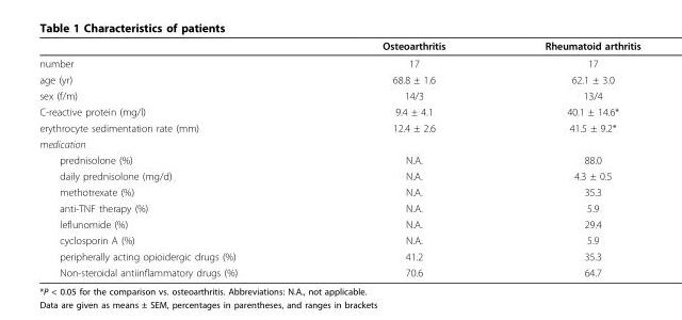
<table><thead><tr><td></td><td>Osteoarthritis</td><td>Rheumatoid arthritis</td></tr></thead><tbody><tr><td>number</td><td>17</td><td>17</td></tr><tr><td>age (yr)</td><td>68.8 ± 1.6</td><td>62.1 ± 3.0</td></tr><tr><td>sex (f/m)</td><td>14/3</td><td>13/4</td></tr><tr><td>C-reactive protein (mg/l)</td><td>9.4 ± 4.1</td><td>40.1 ± 14.6*</td></tr><tr><td>erythrocyte sedimentation rate (mm)</td><td>12.4 ± 2.6</td><td>41.5 ± 9.2*</td></tr><tr><td colspan="3">medication</td></tr><tr><td>prednisolone (%)</td><td>N.A.</td><td>88.0</td></tr><tr><td>daily prednisolone (mg/d)</td><td>N.A.</td><td>4.3 ± 0.5</td></tr><tr><td>methotrexate (%)</td><td>N.A.</td><td>35.3</td></tr><tr><td>anti-TNF therapy (%)</td><td>N.A.</td><td>5.9</td></tr><tr><td>leflunomide (%)</td><td>N.A.</td><td>29.4</td></tr><tr><td>cyclosporin A (%)</td><td>N.A.</td><td>5.9</td></tr><tr><td>peripherally acting opioidergic drugs (%)</td><td>41.2</td><td>35.3</td></tr><tr><td>Non-steroidal antiinflammatory drugs (%)</td><td>70.6</td><td>64.7</td></tr></tbody></table>